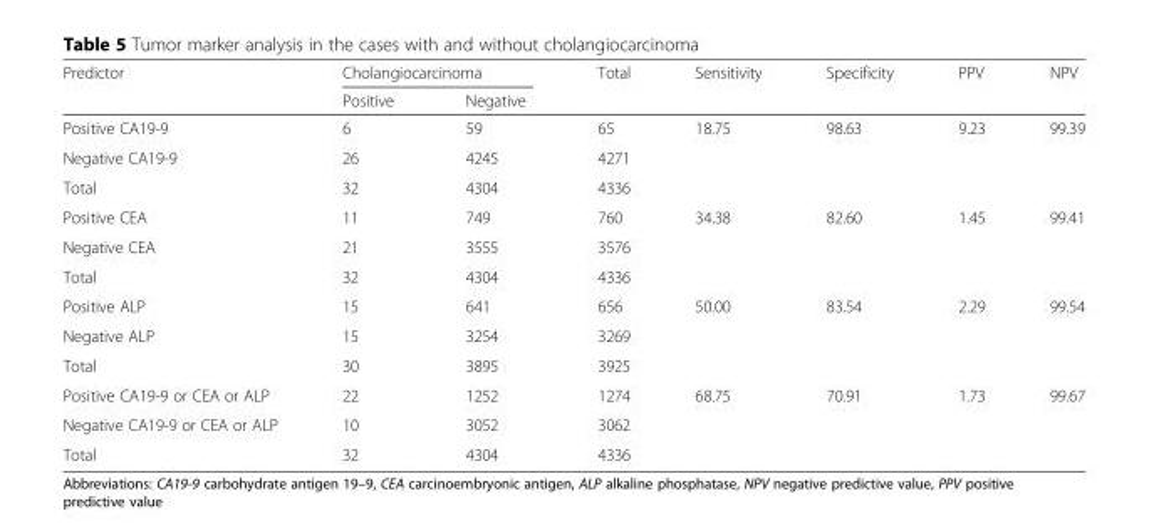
<table><thead><tr><td rowspan="2">Predictor</td><td colspan="2">Cholangiocarcinoma</td><td rowspan="2">Total</td><td rowspan="2">Sensitivity</td><td rowspan="2">Specificity</td><td rowspan="2">PPV</td><td rowspan="2">NPV</td></tr><tr><td>Positive</td><td>Negative</td></tr></thead><tbody><tr><td>Positive CA19-9</td><td>6</td><td>59</td><td>65</td><td rowspan="3">18.75</td><td rowspan="3">98.63</td><td rowspan="3">9.23</td><td rowspan="3">99.39</td></tr><tr><td>Negative CA19-9</td><td>26</td><td>4245</td><td>4271</td></tr><tr><td>Total</td><td>32</td><td>4304</td><td>4336</td></tr><tr><td>Positive CEA</td><td>11</td><td>749</td><td>760</td><td rowspan="3">34.38</td><td rowspan="3">82.60</td><td rowspan="3">1.45</td><td rowspan="3">99.41</td></tr><tr><td>Negative CEA</td><td>21</td><td>3555</td><td>3576</td></tr><tr><td>Total</td><td>32</td><td>4304</td><td>4336</td></tr><tr><td>Positive ALP</td><td>15</td><td>641</td><td>656</td><td rowspan="3">50.00</td><td rowspan="3">83.54</td><td rowspan="3">2.29</td><td rowspan="3">99.54</td></tr><tr><td>Negative ALP</td><td>15</td><td>3254</td><td>3269</td></tr><tr><td>Total</td><td>30</td><td>3895</td><td>3925</td></tr><tr><td>Positive CA19-9 or CEA or ALP</td><td>22</td><td>1252</td><td>1274</td><td rowspan="3">68.75</td><td rowspan="3">70.91</td><td rowspan="3">1.73</td><td rowspan="3">99.67</td></tr><tr><td>Negative CA19-9 or CEA or ALP</td><td>10</td><td>3052</td><td>3062</td></tr><tr><td>Total</td><td>32</td><td>4304</td><td>4336</td></tr></tbody></table>